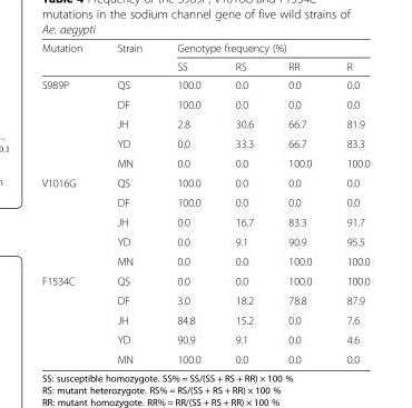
<table><thead><tr><td rowspan="2">Mutation</td><td rowspan="2">Strain</td><td colspan="4">Genotype frequency (%)</td></tr><tr><td>SS</td><td>RS</td><td>RR</td><td>R</td></tr></thead><tbody><tr><td rowspan="5">S989P</td><td>QS</td><td>100.0</td><td>0.0</td><td>0.0</td><td>0.0</td></tr><tr><td>DF</td><td>100.0</td><td>0.0</td><td>0.0</td><td>0.0</td></tr><tr><td>JH</td><td>2.8</td><td>30.6</td><td>66.7</td><td>81.9</td></tr><tr><td>YD</td><td>0.0</td><td>33.3</td><td>66.7</td><td>83.3</td></tr><tr><td>MN</td><td>0.0</td><td>0.0</td><td>100.0</td><td>100.0</td></tr><tr><td rowspan="5">V1016G</td><td>QS</td><td>100.0</td><td>0.0</td><td>0.0</td><td>0.0</td></tr><tr><td>DF</td><td>100.0</td><td>0.0</td><td>0.0</td><td>0.0</td></tr><tr><td>JH</td><td>0.0</td><td>16.7</td><td>83.3</td><td>91.7</td></tr><tr><td>YD</td><td>0.0</td><td>9.1</td><td>90.9</td><td>95.5</td></tr><tr><td>MN</td><td>0.0</td><td>0.0</td><td>100.0</td><td>100.0</td></tr><tr><td rowspan="5">F1534C</td><td>QS</td><td>0.0</td><td>0.0</td><td>100.0</td><td>100.0</td></tr><tr><td>DF</td><td>3.0</td><td>18.2</td><td>78.8</td><td>87.9</td></tr><tr><td>JH</td><td>84.8</td><td>15.2</td><td>0.0</td><td>7.6</td></tr><tr><td>YD</td><td>90.9</td><td>9.1</td><td>0.0</td><td>4.6</td></tr><tr><td>MN</td><td>100.0</td><td>0.0</td><td>0.0</td><td>0.0</td></tr></tbody></table>